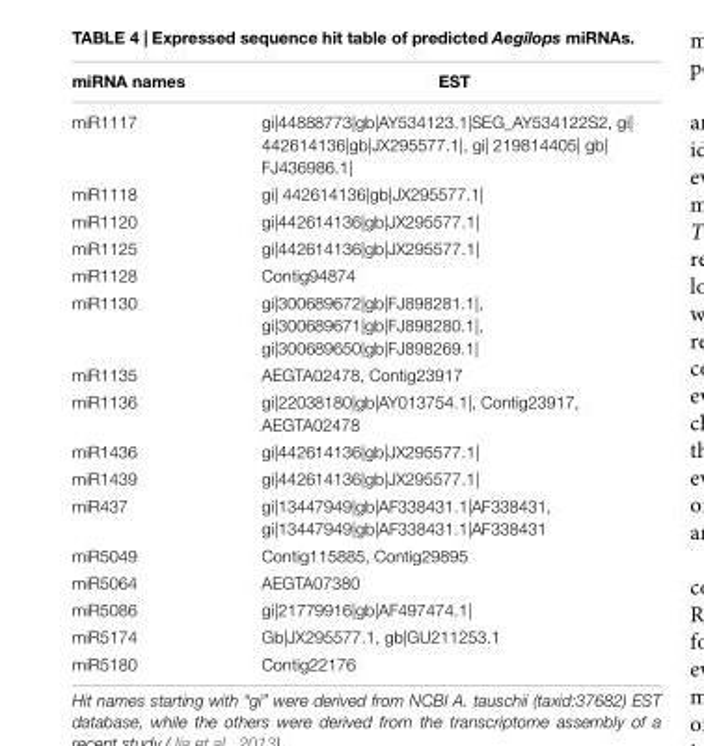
<table><thead><tr><td>miRNA names</td><td>EST</td></tr></thead><tbody><tr><td>miR1117</td><td>gi|44888773|gb|AY534123.1|SEG_AY534122S2, gi| 442614136|gb|JX295577.1|, gi| 219814405| gb| FJ436986.1|</td></tr><tr><td>miR1118</td><td>gi| 442614136|gb|JX295577.1|</td></tr><tr><td>miR1120</td><td>gi|442614136|gb|JX295577.1|</td></tr><tr><td>miR1125</td><td>gi|442614136|gb|JX295577.1|</td></tr><tr><td>miR1128</td><td>Contig94874</td></tr><tr><td>miR1130</td><td>gi|300689672|gb|FJ898281.1|, gi|300689671|gb|FJ898280.1|, gi|300689650|gb|FJ898269.1|</td></tr><tr><td>miR1135</td><td>AEGTA02478, Contig23917</td></tr><tr><td>miR1136</td><td>gi|22038180|gb|AY013754.1|, Contig23917, AEGTA02478</td></tr><tr><td>miR1436</td><td>gi|442614136|gb|JX295577.1|</td></tr><tr><td>miR1439</td><td>gi|442614136|gb|JX295577.1|</td></tr><tr><td>miR437</td><td>gi|13447949|gb|AF338431.1|AF338431, gi|13447949|gb|AF338431.1|AF338431</td></tr><tr><td>miR5049</td><td>Contig115885, Contig29895</td></tr><tr><td>miR5064</td><td>AEGTA07380</td></tr><tr><td>miR5086</td><td>gi|21779916|gb|AF497474.1|</td></tr><tr><td>miR5174</td><td>Gb|JX295577.1, gb|GU211253.1</td></tr><tr><td>miR5180</td><td>Contig22176</td></tr></tbody></table>